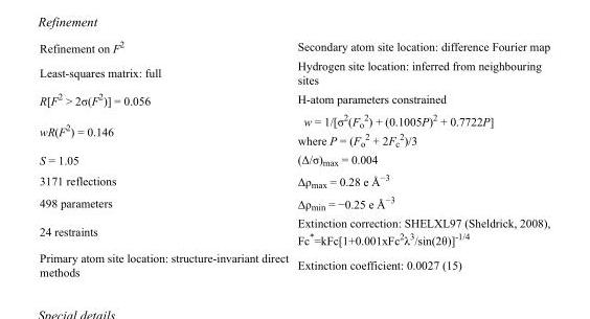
<table><tbody><tr><td>Refinement on F<sup>2</sup></td><td>Secondary atom site location: difference Fourier map</td></tr><tr><td>Least-squares matrix: full</td><td>Hydrogen site location: inferred from neighbouring sites</td></tr><tr><td>R[F<sup>2</sup> &gt; 2σ(F<sup>2</sup>)] = 0.056</td><td>H-atom parameters constrained</td></tr><tr><td>wR(F<sup>2</sup>) = 0.146</td><td>w = 1/[σ<sup>2</sup>(F<sub>o</sub> <sup>2</sup>) + (0.1005P)<sup>2</sup> + 0.7722P] where P = (F<sub>o</sub> <sup>2</sup> + 2F<sub>c</sub> <sup>2</sup>)/3</td></tr><tr><td>S = 1.05</td><td>(Δ/σ)<sub>max</sub> = 0.004</td></tr><tr><td>3171 reflections</td><td>Δρ<sub>max</sub> = 0.28 e Å<sup>−3</sup></td></tr><tr><td>498 parameters</td><td>Δρ<sub>min</sub> = −0.25 e Å<sup>−3</sup></td></tr><tr><td>24 restraints</td><td>Extinction correction: SHELXL97 (Sheldrick, 2008), Fc*=kFc[1+0.001xFc<sup>2</sup>λ<sup>3</sup>/sin(2θ)]<sup>-1/4</sup></td></tr><tr><td>Primary atom site location: structure-invariant direct methods</td><td>Extinction coefficient: 0.0027 (15)</td></tr></tbody></table>